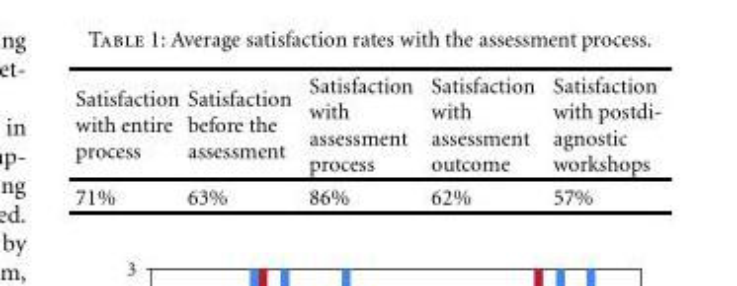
<table><thead><tr><td>Satisfaction with entire process</td><td>Satisfaction before the assessment</td><td>Satisfaction with assessment process</td><td>Satisfaction with assessment outcome</td><td>Satisfaction with postdi- agnostic workshops</td></tr></thead><tbody><tr><td>71%</td><td>63%</td><td>86%</td><td>62%</td><td>57%</td></tr></tbody></table>